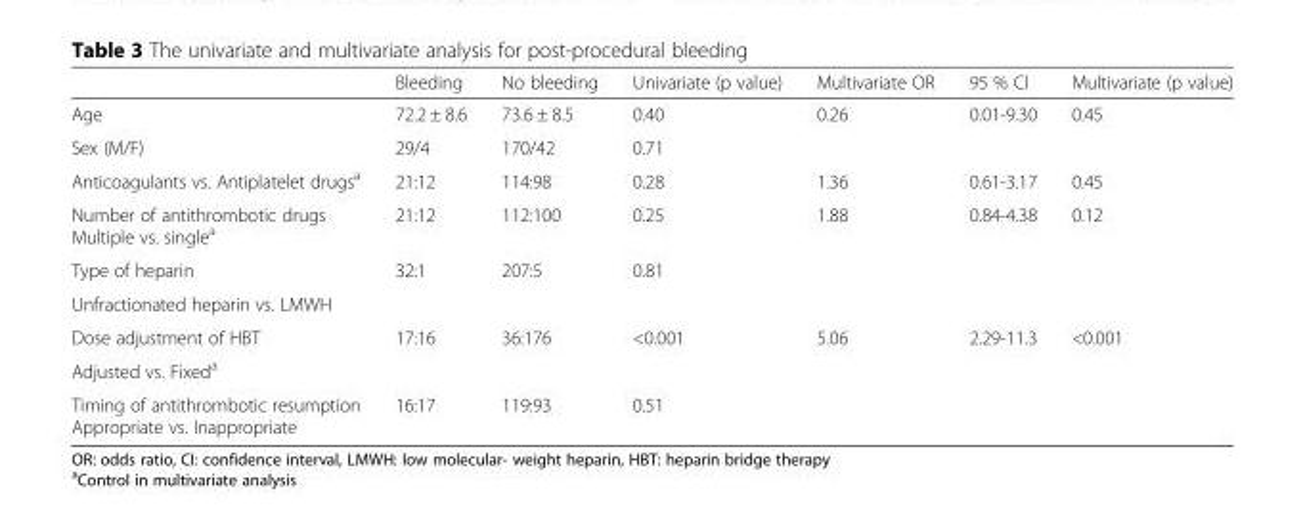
<table><thead><tr><td></td><td>Bleeding</td><td>No bleeding</td><td>Univariate (p value)</td><td>Multivariate OR</td><td>95 % CI</td><td>Multivariate (p value)</td></tr></thead><tbody><tr><td>Age</td><td>72.2 ± 8.6</td><td>73.6 ± 8.5</td><td>0.40</td><td>0.26</td><td>0.01-9.30</td><td>0.45</td></tr><tr><td>Sex (M/F)</td><td>29/4</td><td>170/42</td><td>0.71</td><td></td><td></td><td></td></tr><tr><td>Anticoagulants vs. Antiplatelet drugs<sup>a</sup></td><td>21:12</td><td>114:98</td><td>0.28</td><td>1.36</td><td>0.61-3.17</td><td>0.45</td></tr><tr><td>Number of antithrombotic drugs Multiple vs. single<sup>a</sup></td><td>21:12</td><td>112:100</td><td>0.25</td><td>1.88</td><td>0.84-4.38</td><td>0.12</td></tr><tr><td>Type of heparin</td><td rowspan="2">32:1</td><td rowspan="2">207:5</td><td rowspan="2">0.81</td><td rowspan="2"></td><td rowspan="2"></td><td rowspan="2"></td></tr><tr><td>Unfractionated heparin vs. LMWH</td></tr><tr><td>Dose adjustment of HBT</td><td rowspan="2">17:16</td><td rowspan="2">36:176</td><td rowspan="2">&lt;0.001</td><td rowspan="2">5.06</td><td rowspan="2">2.29-11.3</td><td rowspan="2">&lt;0.001</td></tr><tr><td>Adjusted vs. Fixed<sup>a</sup></td></tr><tr><td>Timing of antithrombotic resumption Appropriate vs. Inappropriate</td><td>16:17</td><td>119:93</td><td>0.51</td><td></td><td></td><td></td></tr></tbody></table>